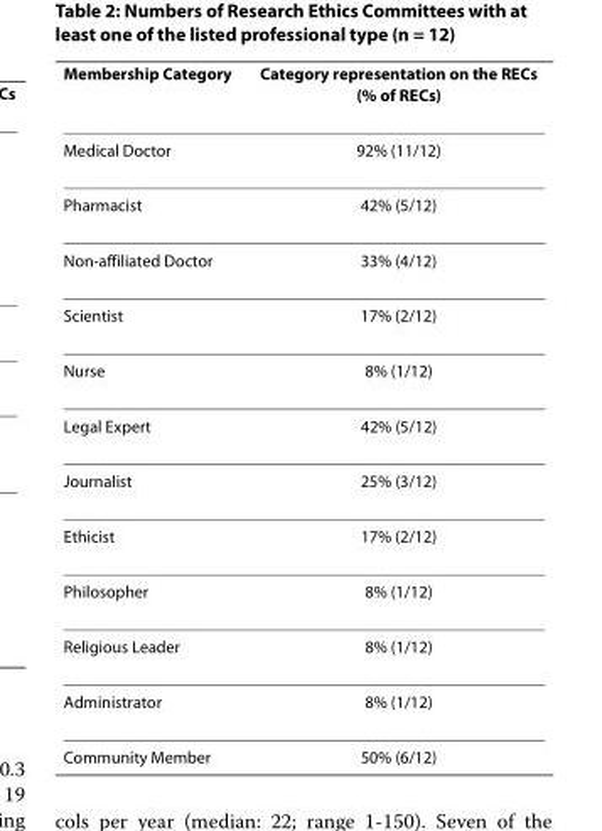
<table><thead><tr><td>Membership Category</td><td>Category representation on the RECs (% of RECs)</td></tr></thead><tbody><tr><td>Medical Doctor</td><td>92% (11/12)</td></tr><tr><td>Pharmacist</td><td>42% (5/12)</td></tr><tr><td>Non-affiliated Doctor</td><td>33% (4/12)</td></tr><tr><td>Scientist</td><td>17% (2/12)</td></tr><tr><td>Nurse</td><td>8% (1/12)</td></tr><tr><td>Legal Expert</td><td>42% (5/12)</td></tr><tr><td>Journalist</td><td>25% (3/12)</td></tr><tr><td>Ethicist</td><td>17% (2/12)</td></tr><tr><td>Philosopher</td><td>8% (1/12)</td></tr><tr><td>Religious Leader</td><td>8% (1/12)</td></tr><tr><td>Administrator</td><td>8% (1/12)</td></tr><tr><td>Community Member</td><td>50% (6/12)</td></tr></tbody></table>